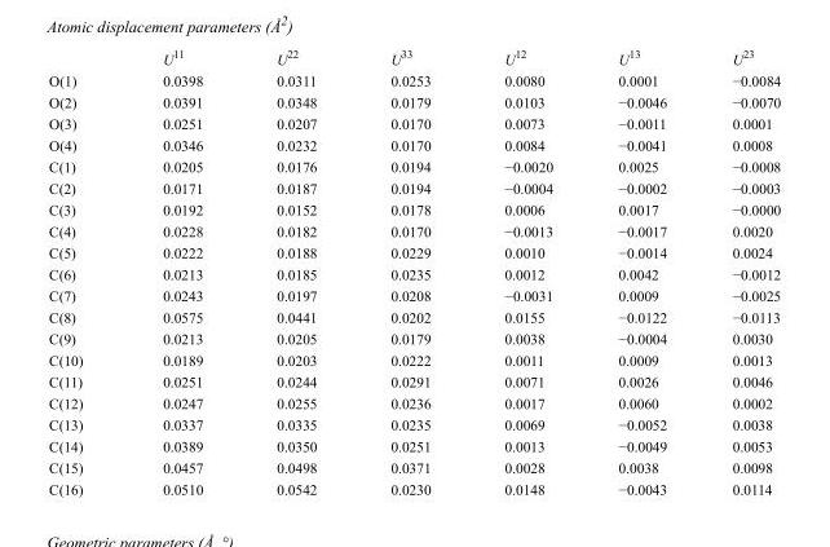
<table><thead><tr><td></td><td>U<sup>11</sup></td><td>U<sup>22</sup></td><td>U<sup>33</sup></td><td>U<sup>12</sup></td><td>U<sup>13</sup></td><td>U<sup>23</sup></td></tr></thead><tbody><tr><td>O(1)</td><td>0.0398</td><td>0.0311</td><td>0.0253</td><td>0.0080</td><td>0.0001</td><td>−0.0084</td></tr><tr><td>O(2)</td><td>0.0391</td><td>0.0348</td><td>0.0179</td><td>0.0103</td><td>−0.0046</td><td>−0.0070</td></tr><tr><td>O(3)</td><td>0.0251</td><td>0.0207</td><td>0.0170</td><td>0.0073</td><td>−0.0011</td><td>0.0001</td></tr><tr><td>O(4)</td><td>0.0346</td><td>0.0232</td><td>0.0170</td><td>0.0084</td><td>−0.0041</td><td>0.0008</td></tr><tr><td>C(1)</td><td>0.0205</td><td>0.0176</td><td>0.0194</td><td>−0.0020</td><td>0.0025</td><td>−0.0008</td></tr><tr><td>C(2)</td><td>0.0171</td><td>0.0187</td><td>0.0194</td><td>−0.0004</td><td>−0.0002</td><td>−0.0003</td></tr><tr><td>C(3)</td><td>0.0192</td><td>0.0152</td><td>0.0178</td><td>0.0006</td><td>0.0017</td><td>−0.0000</td></tr><tr><td>C(4)</td><td>0.0228</td><td>0.0182</td><td>0.0170</td><td>−0.0013</td><td>−0.0017</td><td>0.0020</td></tr><tr><td>C(5)</td><td>0.0222</td><td>0.0188</td><td>0.0229</td><td>0.0010</td><td>−0.0014</td><td>0.0024</td></tr><tr><td>C(6)</td><td>0.0213</td><td>0.0185</td><td>0.0235</td><td>0.0012</td><td>0.0042</td><td>−0.0012</td></tr><tr><td>C(7)</td><td>0.0243</td><td>0.0197</td><td>0.0208</td><td>−0.0031</td><td>0.0009</td><td>−0.0025</td></tr><tr><td>C(8)</td><td>0.0575</td><td>0.0441</td><td>0.0202</td><td>0.0155</td><td>−0.0122</td><td>−0.0113</td></tr><tr><td>C(9)</td><td>0.0213</td><td>0.0205</td><td>0.0179</td><td>0.0038</td><td>−0.0004</td><td>0.0030</td></tr><tr><td>C(10)</td><td>0.0189</td><td>0.0203</td><td>0.0222</td><td>0.0011</td><td>0.0009</td><td>0.0013</td></tr><tr><td>C(11)</td><td>0.0251</td><td>0.0244</td><td>0.0291</td><td>0.0071</td><td>0.0026</td><td>0.0046</td></tr><tr><td>C(12)</td><td>0.0247</td><td>0.0255</td><td>0.0236</td><td>0.0017</td><td>0.0060</td><td>0.0002</td></tr><tr><td>C(13)</td><td>0.0337</td><td>0.0335</td><td>0.0235</td><td>0.0069</td><td>−0.0052</td><td>0.0038</td></tr><tr><td>C(14)</td><td>0.0389</td><td>0.0350</td><td>0.0251</td><td>0.0013</td><td>−0.0049</td><td>0.0053</td></tr><tr><td>C(15)</td><td>0.0457</td><td>0.0498</td><td>0.0371</td><td>0.0028</td><td>0.0038</td><td>0.0098</td></tr><tr><td>C(16)</td><td>0.0510</td><td>0.0542</td><td>0.0230</td><td>0.0148</td><td>−0.0043</td><td>0.0114</td></tr></tbody></table>